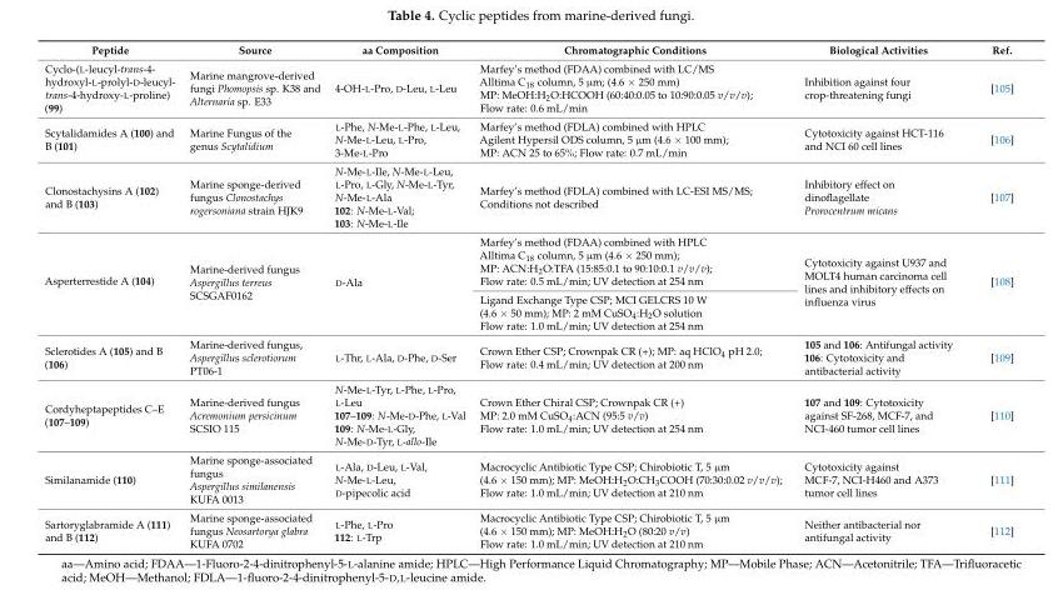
<table><thead><tr><td>Peptide</td><td>Source</td><td>aa Composition</td><td>Chromatographic Conditions</td><td>Biological Activities</td><td>Ref.</td></tr></thead><tbody><tr><td>Cyclo-(L-leucyl-trans-4- hydroxyl-L-prolyl-D-leucyl- trans-4-hydroxy-L-proline) (99)</td><td>Marine mangrove-derived fungi Phomopsis sp. K38 and Alternaria sp. E33</td><td>4-OH-L-Pro, D-Leu, L-Leu</td><td>Marfey’s method (FDAA) combined with LC/MS Alltima C<sub>18</sub> column, 5 µm; (4.6 × 250 mm) MP: MeOH:H<sub>2</sub>O:HCOOH (60:40:0.05 to 10:90:0.05 v/v/v); Flow rate: 0.6 mL/min</td><td>Inhibition against four crop-threatening fungi</td><td>[105]</td></tr><tr><td>Scytalidamides A (100) and B (101)</td><td>Marine Fungus of the genus Scytalidium</td><td>L-Phe, N-Me-L-Phe, L-Leu, N-Me-L-Leu, L-Pro, 3-Me-L-Pro</td><td>Marfey’s method (FDLA) combined with HPLC Agilent Hypersil ODS column, 5 µm (4.6 × 100 mm); MP: ACN 25 to 65%; Flow rate: 0.7 mL/min</td><td>Cytotoxicity against HCT-116 and NCI 60 cell lines</td><td>[106]</td></tr><tr><td>Clonostachysins A (102) and B (103)</td><td>Marine sponge-derived fungus Clonostachys rogersoniana strain HJK9</td><td>N-Me-L-Ile, N-Me-L-Leu, L-Pro, L-Gly, N-Me-L-Tyr, N-Me-L-Ala 102: N-Me-L-Val; 103: N-Me-L-Ile</td><td>Marfey’s method (FDLA) combined with LC-ESI MS/MS; Conditions not described</td><td>Inhibitory effect on dinoflagellate Prorocentrum micans</td><td>[107]</td></tr><tr><td rowspan="2">Asperterrestide A (104)</td><td rowspan="2">Marine-derived fungus Aspergillus terreus SCSGAF0162</td><td rowspan="2">D-Ala</td><td>Marfey’s method (FDAA) combined with HPLC Alltima C<sub>18</sub> column, 5 µm (4.6 × 250 mm); MP: ACN:H<sub>2</sub>O:TFA (15:85:0.1 to 90:10:0.1 v/v/v); Flow rate: 0.5 mL/min; UV detection at 254 nm</td><td rowspan="2">Cytotoxicity against U937 and MOLT4 human carcinoma cell lines and inhibitory effects on influenza virus</td><td rowspan="2">[108]</td></tr><tr><td>Ligand Exchange Type CSP; MCI GELCRS 10 W (4.6 × 50 mm); MP: 2 mM CuSO<sub>4</sub>:H<sub>2</sub>O solution Flow rate: 1.0 mL/min; UV detection at 254 nm</td></tr><tr><td>Sclerotides A (105) and B (106)</td><td>Marine-derived fungus, Aspergillus sclerotiorum PT06-1</td><td>L-Thr, L-Ala, D-Phe, D-Ser</td><td>Crown Ether CSP; Crownpak CR (+); MP: aq HClO<sub>4</sub> pH 2.0; Flow rate: 0.4 mL/min; UV detection at 200 nm</td><td>105 and 106: Antifungal activity 106: Cytotoxicity and antibacterial activity</td><td>[109]</td></tr><tr><td>Cordyheptapeptides C–E (107–109)</td><td>Marine-derived fungus Acremonium persicinum SCSIO 115</td><td>N-Me-L-Tyr, L-Phe, L-Pro, L-Leu 107–109: N-Me-D-Phe, L-Val 109: N-Me-L-Gly, N-Me-D-Tyr, L-allo-Ile</td><td>Crown Ether Chiral CSP; Crownpak CR (+) MP: 2.0 mM CuSO<sub>4</sub>:ACN (95:5 v/v) Flow rate: 1.0 mL/min; UV detection at 254 nm</td><td>107 and 109: Cytotoxicity against SF-268, MCF-7, and NCI-460 tumor cell lines</td><td>[110]</td></tr><tr><td>Similanamide (110)</td><td>Marine sponge-associated fungus Aspergillus similanensis KUFA 0013</td><td>L-Ala, D-Leu, L-Val, N-Me-L-Leu, D-pipecolic acid</td><td>Macrocyclic Antibiotic Type CSP; Chirobiotic T, 5 µm (4.6 × 150 mm); MP: MeOH:H<sub>2</sub>O:CH<sub>3</sub>COOH (70:30:0.02 v/v/v); Flow rate: 1.0 mL/min; UV detection at 210 nm</td><td>Cytotoxicity against MCF-7, NCI-H460 and A373 tumor cell lines</td><td>[111]</td></tr><tr><td>Sartoryglabramide A (111) and B (112)</td><td>Marine sponge-associated fungus Neosartorya glabra KUFA 0702</td><td>L-Phe, L-Pro 112: L-Trp</td><td>Macrocyclic Antibiotic Type CSP; Chirobiotic T, 5 µm (4.6 × 150 mm); MP: MeOH:H<sub>2</sub>O (80:20 v/v) Flow rate: 1.0 mL/min; UV detection at 210 nm</td><td>Neither antibacterial nor antifungal activity</td><td>[112]</td></tr></tbody></table>